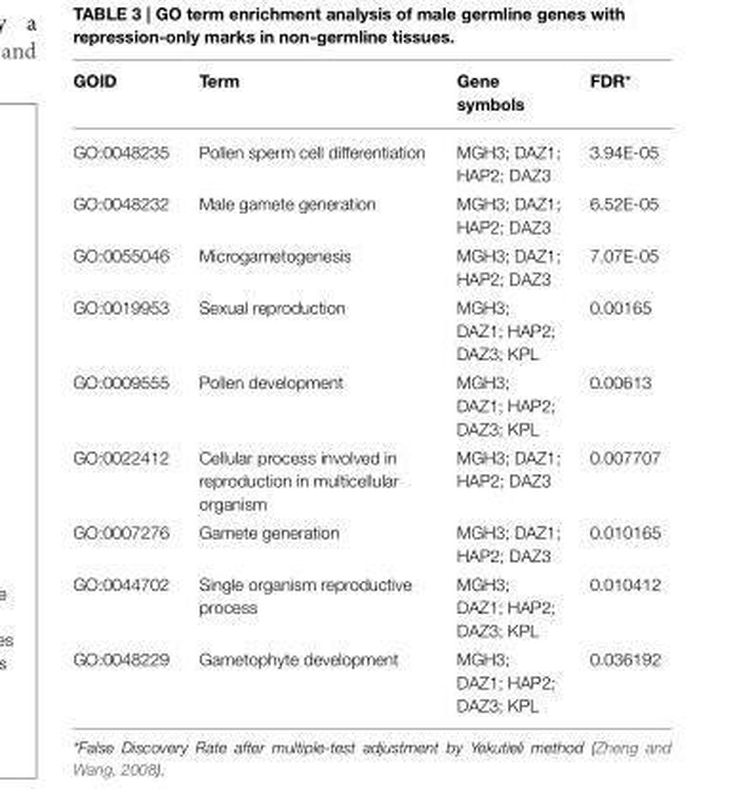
<table><thead><tr><td>GOID</td><td>Term</td><td>Gene symbols</td><td>FDR*</td></tr></thead><tbody><tr><td>GO:0048235</td><td>Pollen sperm cell differentiation</td><td>MGH3; DAZ1; HAP2; DAZ3</td><td>3.94E-05</td></tr><tr><td>GO:0048232</td><td>Male gamete generation</td><td>MGH3; DAZ1; HAP2; DAZ3</td><td>6.52E-05</td></tr><tr><td>GO:0055046</td><td>Microgametogenesis</td><td>MGH3; DAZ1; HAP2; DAZ3</td><td>7.07E-05</td></tr><tr><td>GO:0019953</td><td>Sexual reproduction</td><td>MGH3; DAZ1; HAP2; DAZ3; KPL</td><td>0.00165</td></tr><tr><td>GO:0009555</td><td>Pollen development</td><td>MGH3; DAZ1; HAP2; DAZ3; KPL</td><td>0.00613</td></tr><tr><td>GO:0022412</td><td>Cellular process involved in reproduction in multicellular organism</td><td>MGH3; DAZ1; HAP2; DAZ3</td><td>0.007707</td></tr><tr><td>GO:0007276</td><td>Gamete generation</td><td>MGH3; DAZ1; HAP2; DAZ3</td><td>0.010165</td></tr><tr><td>GO:0044702</td><td>Single organism reproductive process</td><td>MGH3; DAZ1; HAP2; DAZ3; KPL</td><td>0.010412</td></tr><tr><td>GO:0048229</td><td>Gametophyte development</td><td>MGH3; DAZ1; HAP2; DAZ3; KPL</td><td>0.036192</td></tr></tbody></table>